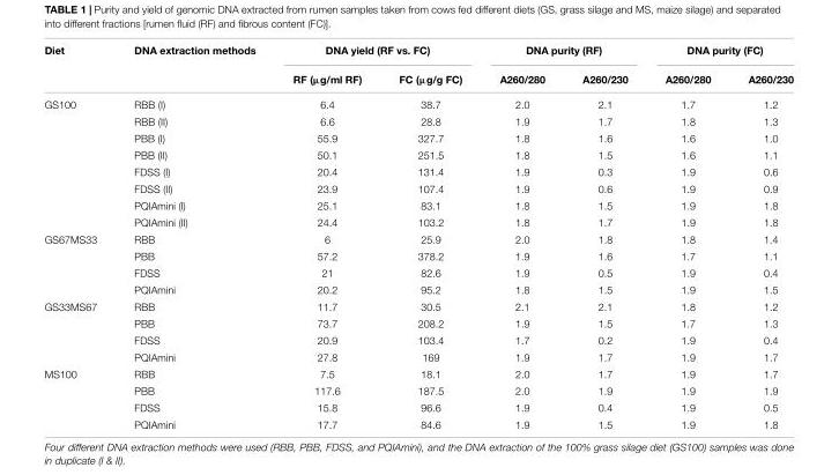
<table><thead><tr><td rowspan="2">Diet</td><td rowspan="2">DNA extraction methods</td><td colspan="2">DNA yield (RF vs. FC)</td><td colspan="2">DNA purity (RF)</td><td colspan="2">DNA purity (FC)</td></tr><tr><td>RF (µg/ml RF)</td><td>FC (µg/g FC)</td><td>A260/280</td><td>A260/230</td><td>A260/280</td><td>A260/230</td></tr></thead><tbody><tr><td rowspan="8">GS100</td><td>RBB (I)</td><td>6.4</td><td>38.7</td><td>2.0</td><td>2.1</td><td>1.7</td><td>1.2</td></tr><tr><td>RBB (II)</td><td>6.6</td><td>28.8</td><td>1.9</td><td>1.7</td><td>1.8</td><td>1.3</td></tr><tr><td>PBB (I)</td><td>55.9</td><td>327.7</td><td>1.8</td><td>1.6</td><td>1.6</td><td>1.0</td></tr><tr><td>PBB (II)</td><td>50.1</td><td>251.5</td><td>1.8</td><td>1.5</td><td>1.6</td><td>1.1</td></tr><tr><td>FDSS (I)</td><td>20.4</td><td>131.4</td><td>1.9</td><td>0.3</td><td>1.9</td><td>0.6</td></tr><tr><td>FDSS (II)</td><td>23.9</td><td>107.4</td><td>1.9</td><td>0.6</td><td>1.9</td><td>0.9</td></tr><tr><td>PQIAmini (I)</td><td>25.1</td><td>83.1</td><td>1.8</td><td>1.5</td><td>1.9</td><td>1.8</td></tr><tr><td>PQIAmini (II)</td><td>24.4</td><td>103.2</td><td>1.8</td><td>1.7</td><td>1.9</td><td>1.8</td></tr><tr><td rowspan="4">GS67MS33</td><td>RBB</td><td>6</td><td>25.9</td><td>2.0</td><td>1.8</td><td>1.8</td><td>1.4</td></tr><tr><td>PBB</td><td>57.2</td><td>378.2</td><td>1.9</td><td>1.6</td><td>1.7</td><td>1.1</td></tr><tr><td>FDSS</td><td>21</td><td>82.6</td><td>1.9</td><td>0.5</td><td>1.9</td><td>0.4</td></tr><tr><td>PQIAmini</td><td>20.2</td><td>95.2</td><td>1.8</td><td>1.5</td><td>1.9</td><td>1.5</td></tr><tr><td rowspan="4">GS33MS67</td><td>RBB</td><td>11.7</td><td>30.5</td><td>2.1</td><td>2.1</td><td>1.8</td><td>1.2</td></tr><tr><td>PBB</td><td>73.7</td><td>208.2</td><td>1.9</td><td>1.5</td><td>1.7</td><td>1.3</td></tr><tr><td>FDSS</td><td>20.9</td><td>103.4</td><td>1.7</td><td>0.2</td><td>1.9</td><td>0.4</td></tr><tr><td>PQIAmini</td><td>27.8</td><td>169</td><td>1.9</td><td>1.7</td><td>1.9</td><td>1.7</td></tr><tr><td rowspan="4">MS100</td><td>RBB</td><td>7.5</td><td>18.1</td><td>2.0</td><td>1.7</td><td>1.9</td><td>1.7</td></tr><tr><td>PBB</td><td>117.6</td><td>187.5</td><td>2.0</td><td>1.9</td><td>1.9</td><td>1.9</td></tr><tr><td>FDSS</td><td>15.8</td><td>96.6</td><td>1.9</td><td>0.4</td><td>1.9</td><td>0.5</td></tr><tr><td>PQIAmini</td><td>17.7</td><td>84.6</td><td>1.9</td><td>1.5</td><td>1.9</td><td>1.8</td></tr></tbody></table>